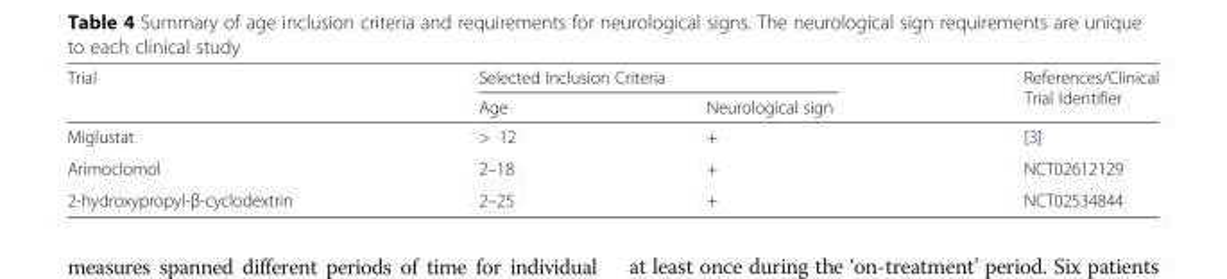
<table><thead><tr><td rowspan="2">Trial</td><td colspan="2">Selected Inclusion Criteria</td><td rowspan="2">References/Clinical Trial Identifier</td></tr><tr><td>Age</td><td>Neurological sign</td></tr></thead><tbody><tr><td>Miglustat</td><td>&gt; 12</td><td>+</td><td>[3]</td></tr><tr><td>Arimoclomol</td><td>2–18</td><td>+</td><td>NCT02612129</td></tr><tr><td>2-hydroxypropyl-β-cyclodextrin</td><td>2–25</td><td>+</td><td>NCT02534844</td></tr></tbody></table>